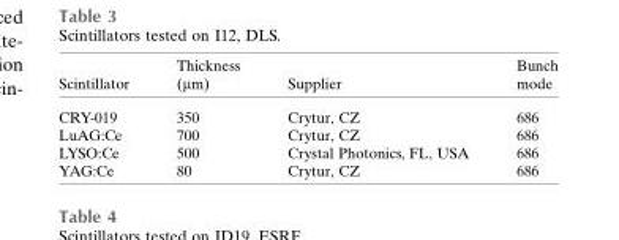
<table><thead><tr><td>Scintillator</td><td>Thickness (µm)</td><td>Supplier</td><td>Bunch mode</td></tr></thead><tbody><tr><td>CRY-019</td><td>350</td><td>Crytur, CZ</td><td>686</td></tr><tr><td>LuAG:Ce</td><td>700</td><td>Crytur, CZ</td><td>686</td></tr><tr><td>LYSO:Ce</td><td>500</td><td>Crystal Photonics, FL, USA</td><td>686</td></tr><tr><td>YAG:Ce</td><td>80</td><td>Crytur, CZ</td><td>686</td></tr></tbody></table>